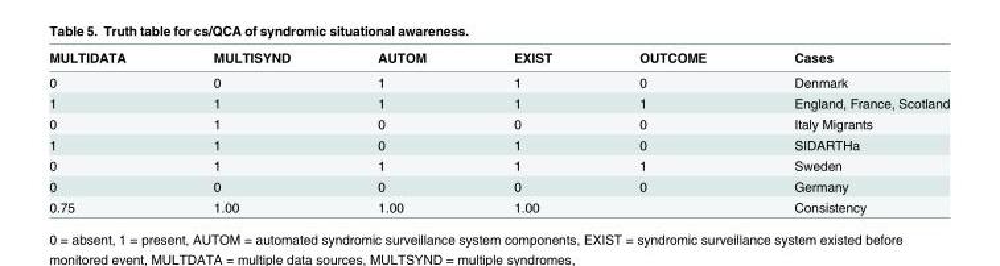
<table><thead><tr><td>MULTIDATA</td><td>MULTISYND</td><td>AUTOM</td><td>EXIST</td><td>OUTCOME</td><td>Cases</td></tr></thead><tbody><tr><td>0</td><td>0</td><td>1</td><td>1</td><td>0</td><td>Denmark</td></tr><tr><td>1</td><td>1</td><td>1</td><td>1</td><td>1</td><td>England, France, Scotland</td></tr><tr><td>0</td><td>1</td><td>0</td><td>0</td><td>0</td><td>Italy Migrants</td></tr><tr><td>1</td><td>1</td><td>0</td><td>1</td><td>0</td><td>SIDARTHa</td></tr><tr><td>0</td><td>1</td><td>1</td><td>1</td><td>1</td><td>Sweden</td></tr><tr><td>0</td><td>0</td><td>0</td><td>0</td><td>0</td><td>Germany</td></tr><tr><td>0.75</td><td>1.00</td><td>1.00</td><td>1.00</td><td></td><td>Consistency</td></tr></tbody></table>